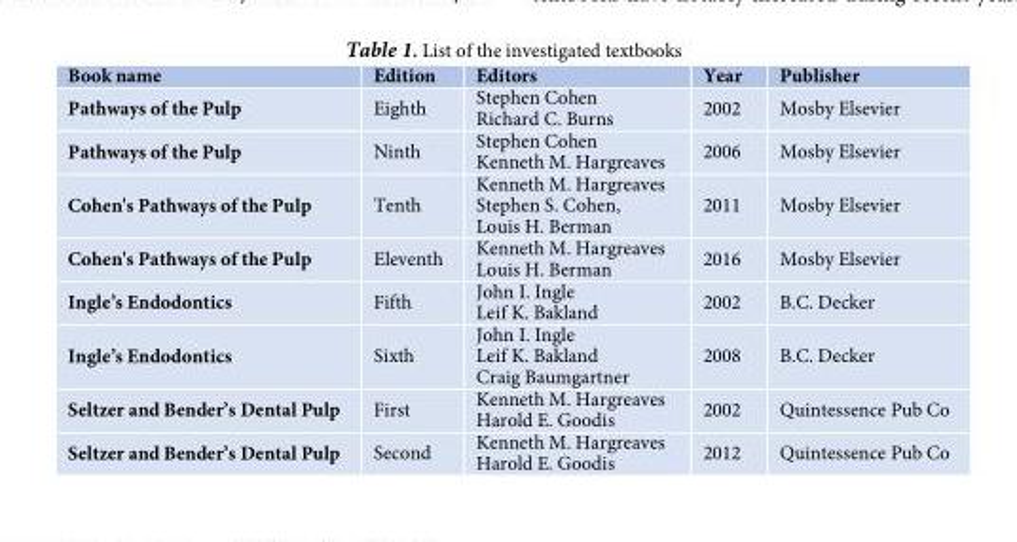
<table><thead><tr><td>Book name</td><td>Edition</td><td>Editors</td><td>Year</td><td>Publisher</td></tr></thead><tbody><tr><td>Pathways of the Pulp</td><td>Eighth</td><td>Stephen Cohen Richard C. Burns</td><td>2002</td><td>Mosby Elsevier</td></tr><tr><td>Pathways of the Pulp</td><td>Ninth</td><td>Stephen Cohen Kenneth M. Hargreaves</td><td>2006</td><td>Mosby Elsevier</td></tr><tr><td>Cohen&#x27;s Pathways of the Pulp</td><td>Tenth</td><td>Kenneth M. Hargreaves Stephen S. Cohen, Louis H. Berman</td><td>2011</td><td>Mosby Elsevier</td></tr><tr><td>Cohen&#x27;s Pathways of the Pulp</td><td>Eleventh</td><td>Kenneth M. Hargreaves Louis H. Berman</td><td>2016</td><td>Mosby Elsevier</td></tr><tr><td>Ingle’s Endodontics</td><td>Fifth</td><td>John I. Ingle Leif K. Bakland</td><td>2002</td><td>B.C. Decker</td></tr><tr><td>Ingle’s Endodontics</td><td>Sixth</td><td>John I. Ingle Leif K. Bakland Craig Baumgartner</td><td>2008</td><td>B.C. Decker</td></tr><tr><td>Seltzer and Bender’s Dental Pulp</td><td>First</td><td>Kenneth M. Hargreaves Harold E. Goodis</td><td>2002</td><td>Quintessence Pub Co</td></tr><tr><td>Seltzer and Bender’s Dental Pulp</td><td>Second</td><td>Kenneth M. Hargreaves Harold E. Goodis</td><td>2012</td><td>Quintessence Pub Co</td></tr></tbody></table>